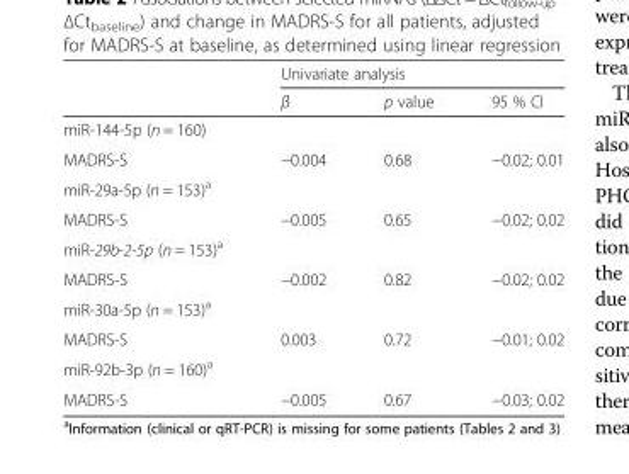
<table><thead><tr><td rowspan="2"></td><td colspan="3">Univariate analysis</td></tr><tr><td>β</td><td>p value</td><td>95 % CI</td></tr></thead><tbody><tr><td colspan="4">miR-144-5p (n = 160)</td></tr><tr><td>MADRS-S</td><td>−0.004</td><td>0.68</td><td>−0.02; 0.01</td></tr><tr><td colspan="4">miR-29a-5p (n = 153)<sup>a</sup></td></tr><tr><td>MADRS-S</td><td>−0.005</td><td>0.65</td><td>−0.02; 0.02</td></tr><tr><td colspan="4">miR-29b-2-5p (n = 153)<sup>a</sup></td></tr><tr><td>MADRS-S</td><td>−0.002</td><td>0.82</td><td>−0.02; 0.02</td></tr><tr><td colspan="4">miR-30a-5p (n = 153)<sup>a</sup></td></tr><tr><td>MADRS-S</td><td>0.003</td><td>0.72</td><td>−0.01; 0.02</td></tr><tr><td colspan="4">miR-92b-3p (n = 160)<sup>a</sup></td></tr><tr><td>MADRS-S</td><td>−0.005</td><td>0.67</td><td>−0.03; 0.02</td></tr></tbody></table>